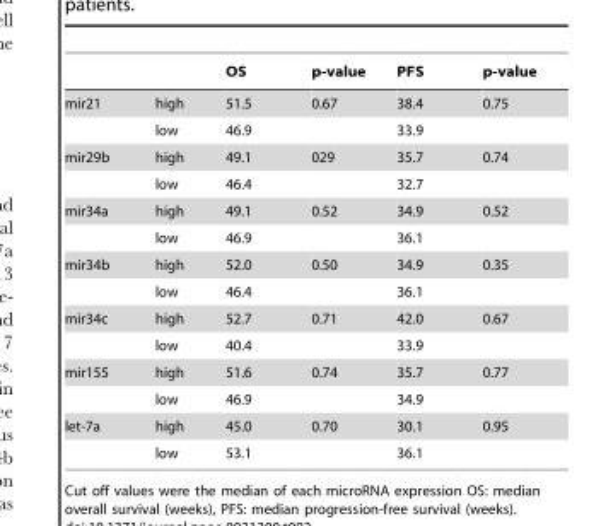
<table><thead><tr><td></td><td></td><td>OS</td><td>p-value</td><td>PFS</td><td>p-value</td></tr></thead><tbody><tr><td rowspan="2">mir21</td><td>high</td><td>51.5</td><td>0.67</td><td>38.4</td><td>0.75</td></tr><tr><td>low</td><td>46.9</td><td></td><td>33.9</td><td></td></tr><tr><td rowspan="2">mir29b</td><td>high</td><td>49.1</td><td>029</td><td>35.7</td><td>0.74</td></tr><tr><td>low</td><td>46.4</td><td></td><td>32.7</td><td></td></tr><tr><td rowspan="2">mir34a</td><td>high</td><td>49.1</td><td>0.52</td><td>34.9</td><td>0.52</td></tr><tr><td>low</td><td>46.9</td><td></td><td>36.1</td><td></td></tr><tr><td rowspan="2">mir34b</td><td>high</td><td>52.0</td><td>0.50</td><td>34.9</td><td>0.35</td></tr><tr><td>low</td><td>46.4</td><td></td><td>36.1</td><td></td></tr><tr><td rowspan="2">mir34c</td><td>high</td><td>52.7</td><td>0.71</td><td>42.0</td><td>0.67</td></tr><tr><td>low</td><td>40.4</td><td></td><td>33.9</td><td></td></tr><tr><td rowspan="2">mir155</td><td>high</td><td>51.6</td><td>0.74</td><td>35.7</td><td>0.77</td></tr><tr><td>low</td><td>46.9</td><td></td><td>34.9</td><td></td></tr><tr><td rowspan="2">let-7a</td><td>high</td><td>45.0</td><td>0.70</td><td>30.1</td><td>0.95</td></tr><tr><td>low</td><td>53.1</td><td></td><td>36.1</td><td></td></tr></tbody></table>